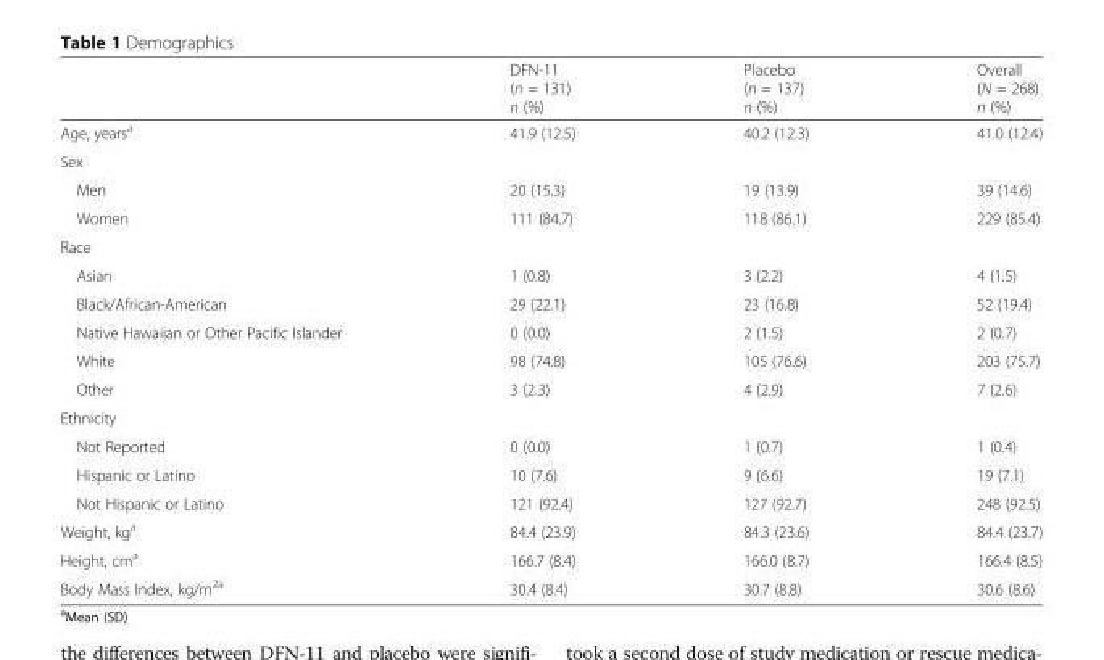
<table><thead><tr><td></td><td>DFN-11 (n = 131) n (%)</td><td>Placebo (n = 137) n (%)</td><td>Overall (N = 268) n (%)</td></tr></thead><tbody><tr><td>Age, years<sup>a</sup></td><td>41.9 (12.5)</td><td>40.2 (12.3)</td><td>41.0 (12.4)</td></tr><tr><td colspan="4">Sex</td></tr><tr><td>Men</td><td>20 (15.3)</td><td>19 (13.9)</td><td>39 (14.6)</td></tr><tr><td>Women</td><td>111 (84.7)</td><td>118 (86.1)</td><td>229 (85.4)</td></tr><tr><td colspan="4">Race</td></tr><tr><td>Asian</td><td>1 (0.8)</td><td>3 (2.2)</td><td>4 (1.5)</td></tr><tr><td>Black/African-American</td><td>29 (22.1)</td><td>23 (16.8)</td><td>52 (19.4)</td></tr><tr><td>Native Hawaiian or Other Pacific Islander</td><td>0 (0.0)</td><td>2 (1.5)</td><td>2 (0.7)</td></tr><tr><td>White</td><td>98 (74.8)</td><td>105 (76.6)</td><td>203 (75.7)</td></tr><tr><td>Other</td><td>3 (2.3)</td><td>4 (2.9)</td><td>7 (2.6)</td></tr><tr><td colspan="4">Ethnicity</td></tr><tr><td>Not Reported</td><td>0 (0.0)</td><td>1 (0.7)</td><td>1 (0.4)</td></tr><tr><td>Hispanic or Latino</td><td>10 (7.6)</td><td>9 (6.6)</td><td>19 (7.1)</td></tr><tr><td>Not Hispanic or Latino</td><td>121 (92.4)</td><td>127 (92.7)</td><td>248 (92.5)</td></tr><tr><td>Weight, kg<sup>a</sup></td><td>84.4 (23.9)</td><td>84.3 (23.6)</td><td>84.4 (23.7)</td></tr><tr><td>Height, cm<sup>a</sup></td><td>166.7 (8.4)</td><td>166.0 (8.7)</td><td>166.4 (8.5)</td></tr><tr><td>Body Mass Index, kg/m<sup>2a</sup></td><td>30.4 (8.4)</td><td>30.7 (8.8)</td><td>30.6 (8.6)</td></tr></tbody></table>